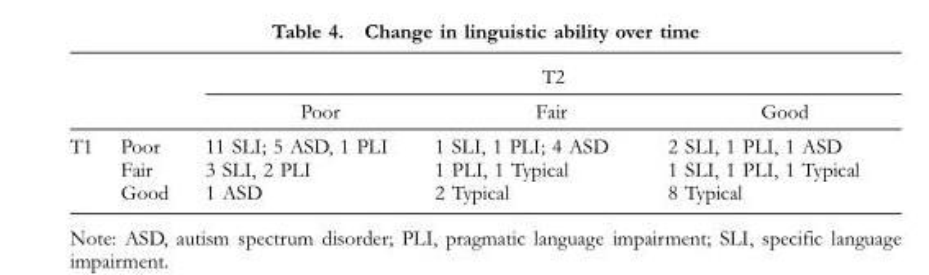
<table><thead><tr><td rowspan="2"></td><td rowspan="2"></td><td colspan="3">T2</td></tr><tr><td>Poor</td><td>Fair</td><td>Good</td></tr></thead><tbody><tr><td rowspan="3">T1</td><td>Poor</td><td>11 SLI; 5 ASD, 1 PLI</td><td>1 SLI, 1 PLI; 4 ASD</td><td>2 SLI, 1 PLI, 1 ASD</td></tr><tr><td>Fair</td><td>3 SLI, 2 PLI</td><td>1 PLI, 1 Typical</td><td>1 SLI, 1 PLI, 1 Typical</td></tr><tr><td>Good</td><td>1 ASD</td><td>2 Typical</td><td>8 Typical</td></tr></tbody></table>